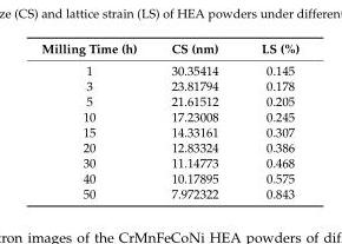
<table><thead><tr><td>Milling Time (h)</td><td>CS (nm)</td><td>LS (%)</td></tr></thead><tbody><tr><td>1</td><td>30.35414</td><td>0.145</td></tr><tr><td>3</td><td>23.81794</td><td>0.178</td></tr><tr><td>5</td><td>21.61512</td><td>0.205</td></tr><tr><td>10</td><td>17.23008</td><td>0.245</td></tr><tr><td>15</td><td>14.33161</td><td>0.307</td></tr><tr><td>20</td><td>12.83324</td><td>0.386</td></tr><tr><td>30</td><td>11.14773</td><td>0.468</td></tr><tr><td>40</td><td>10.17895</td><td>0.575</td></tr><tr><td>50</td><td>7.972322</td><td>0.843</td></tr></tbody></table>